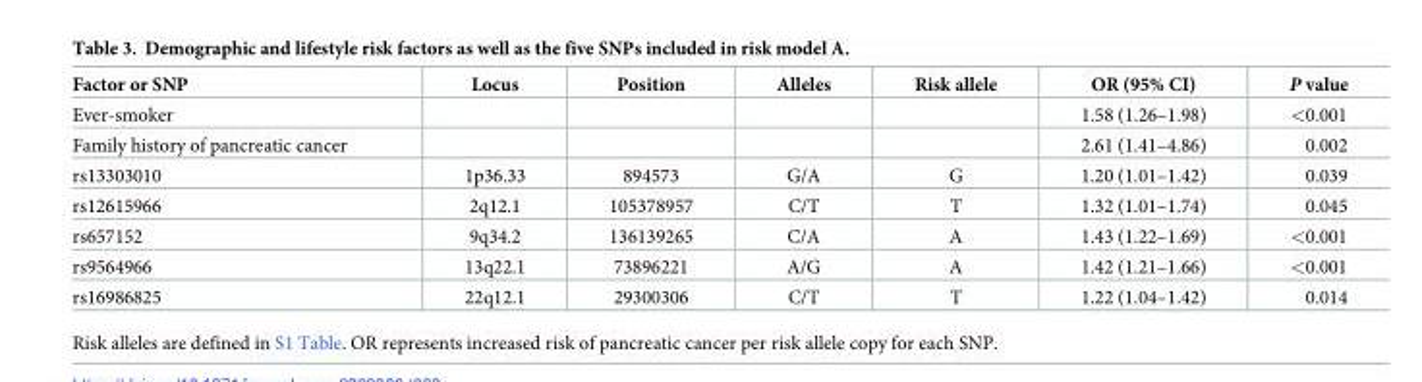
<table><thead><tr><td>Factor or SNP</td><td>Locus</td><td>Position</td><td>Alleles</td><td>Risk allele</td><td>OR (95% CI)</td><td>P value</td></tr></thead><tbody><tr><td>Ever-smoker</td><td></td><td></td><td></td><td></td><td>1.58 (1.26–1.98)</td><td>&lt;0.001</td></tr><tr><td>Family history of pancreatic cancer</td><td></td><td></td><td></td><td></td><td>2.61 (1.41–4.86)</td><td>0.002</td></tr><tr><td>rs13303010</td><td>1p36.33</td><td>894573</td><td>G/A</td><td>G</td><td>1.20 (1.01–1.42)</td><td>0.039</td></tr><tr><td>rs12615966</td><td>2q12.1</td><td>105378957</td><td>C/T</td><td>T</td><td>1.32 (1.01–1.74)</td><td>0.045</td></tr><tr><td>rs657152</td><td>9q34.2</td><td>136139265</td><td>C/A</td><td>A</td><td>1.43 (1.22–1.69)</td><td>&lt;0.001</td></tr><tr><td>rs9564966</td><td>13q22.1</td><td>73896221</td><td>A/G</td><td>A</td><td>1.42 (1.21–1.66)</td><td>&lt;0.001</td></tr><tr><td>rs16986825</td><td>22q12.1</td><td>29300306</td><td>C/T</td><td>T</td><td>1.22 (1.04–1.42)</td><td>0.014</td></tr></tbody></table>